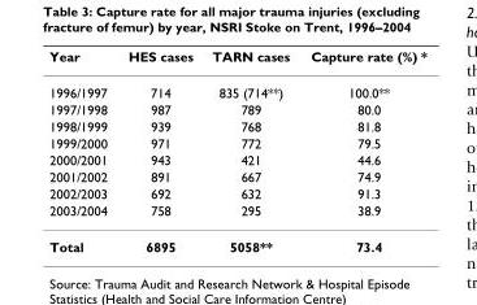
<table><thead><tr><td>Year</td><td>HES cases</td><td>TARN cases</td><td>Capture rate (%) *</td></tr></thead><tbody><tr><td>1996/1997</td><td>714</td><td>835 (714**)</td><td>100.0**</td></tr><tr><td>1997/1998</td><td>987</td><td>789</td><td>80.0</td></tr><tr><td>1998/1999</td><td>939</td><td>768</td><td>81.8</td></tr><tr><td>1999/2000</td><td>971</td><td>772</td><td>79.5</td></tr><tr><td>2000/2001</td><td>943</td><td>421</td><td>44.6</td></tr><tr><td>2001/2002</td><td>891</td><td>667</td><td>74.9</td></tr><tr><td>2002/2003</td><td>692</td><td>632</td><td>91.3</td></tr><tr><td>2003/2004</td><td>758</td><td>295</td><td>38.9</td></tr><tr><td>Total</td><td>6895</td><td>5058**</td><td>73.4</td></tr></tbody></table>